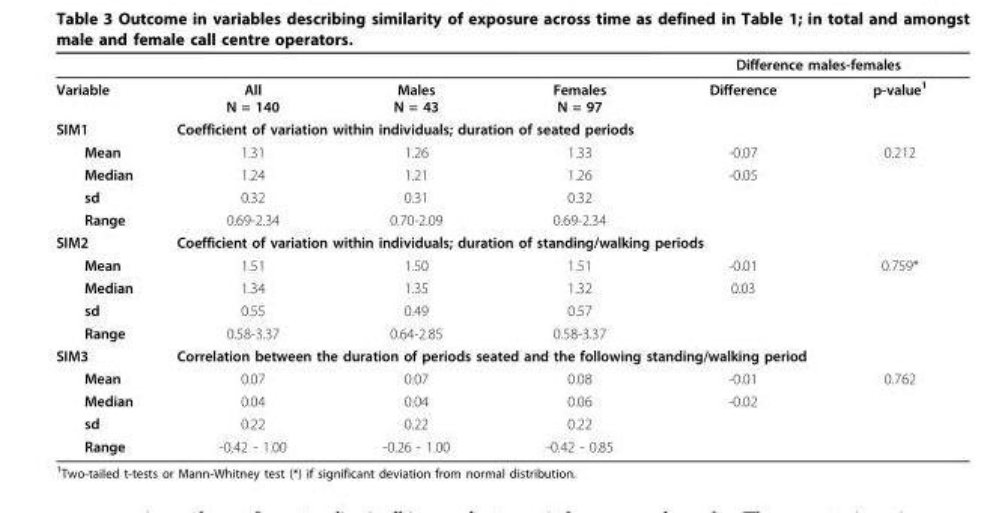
<table><thead><tr><td rowspan="2">Variable</td><td rowspan="2">All N = 140</td><td rowspan="2">Males N = 43</td><td rowspan="2">Females N = 97</td><td colspan="2">Difference males-females</td></tr><tr><td>Difference</td><td>p-value<sup>1</sup></td></tr></thead><tbody><tr><td>SIM1</td><td colspan="5">Coefficient of variation within individuals; duration of seated periods</td></tr><tr><td>Mean</td><td>1.31</td><td>1.26</td><td>1.33</td><td>-0.07</td><td>0.212</td></tr><tr><td>Median</td><td>1.24</td><td>1.21</td><td>1.26</td><td>-0.05</td><td></td></tr><tr><td>sd</td><td>0.32</td><td>0.31</td><td>0.32</td><td></td><td></td></tr><tr><td>Range</td><td>0.69-2.34</td><td>0.70-2.09</td><td>0.69-2.34</td><td></td><td></td></tr><tr><td>SIM2</td><td colspan="5">Coefficient of variation within individuals; duration of standing/walking periods</td></tr><tr><td>Mean</td><td>1.51</td><td>1.50</td><td>1.51</td><td>-0.01</td><td>0.759*</td></tr><tr><td>Median</td><td>1.34</td><td>1.35</td><td>1.32</td><td>0.03</td><td></td></tr><tr><td>sd</td><td>0.55</td><td>0.49</td><td>0.57</td><td></td><td></td></tr><tr><td>Range</td><td>0.58-3.37</td><td>0.64-2.85</td><td>0.58-3.37</td><td></td><td></td></tr><tr><td>SIM3</td><td colspan="5">Correlation between the duration of periods seated and the following standing/walking period</td></tr><tr><td>Mean</td><td>0.07</td><td>0.07</td><td>0.08</td><td>-0.01</td><td>0.762</td></tr><tr><td>Median</td><td>0.04</td><td>0.04</td><td>0.06</td><td>-0.02</td><td></td></tr><tr><td>sd</td><td>0.22</td><td>0.22</td><td>0.22</td><td></td><td></td></tr><tr><td>Range</td><td>-0.42 - 1.00</td><td>-0.26 - 1.00</td><td>-0.42 - 0.85</td><td></td><td></td></tr></tbody></table>